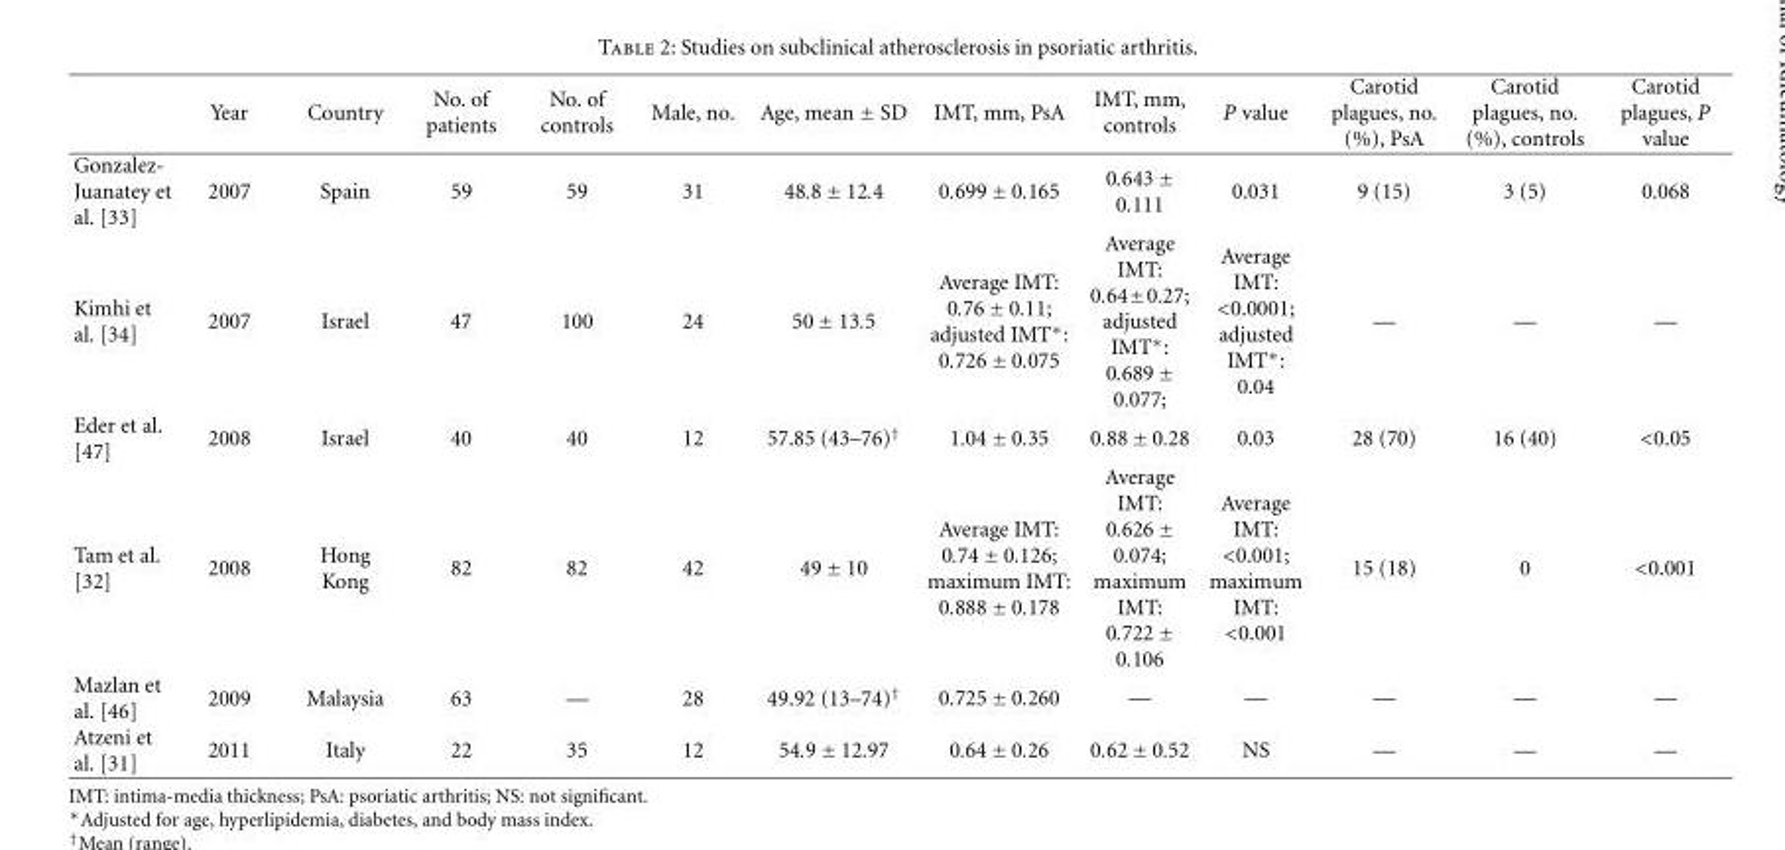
<table><thead><tr><td></td><td>Year</td><td>Country</td><td>No. of patients</td><td>No. of controls</td><td>Male, no.</td><td>Age, mean ± SD</td><td>IMT, mm, PsA</td><td>IMT, mm, controls</td><td>P value</td><td>Carotid plagues, no. (%), PsA</td><td>Carotid plagues, no. (%), controls</td><td>Carotid plagues, P value</td></tr></thead><tbody><tr><td>Gonzalez- Juanatey et al. [33]</td><td>2007</td><td>Spain</td><td>59</td><td>59</td><td>31</td><td>48.8 ± 12.4</td><td>0.699 ± 0.165</td><td>0.643 ± 0.111</td><td>0.031</td><td>9 (15)</td><td>3 (5)</td><td>0.068</td></tr><tr><td>Kimhi et al. [34]</td><td>2007</td><td>Israel</td><td>47</td><td>100</td><td>24</td><td>50 ± 13.5</td><td>Average IMT: 0.76 ± 0.11; adjusted IMT∗: 0.726 ± 0.075</td><td>Average IMT: 0.64±0.27; adjusted IMT∗: 0.689 ± 0.077;</td><td>Average IMT: &lt;0.0001; adjusted IMT∗: 0.04</td><td>—</td><td>—</td><td>—</td></tr><tr><td>Eder et al. [47]</td><td>2008</td><td>Israel</td><td>40</td><td>40</td><td>12</td><td>57.85 (43–76)<sup>†</sup></td><td>1.04 ± 0.35</td><td>0.88 ± 0.28</td><td>0.03</td><td>28 (70)</td><td>16 (40)</td><td>&lt;0.05</td></tr><tr><td>Tam et al. [32]</td><td>2008</td><td>Hong Kong</td><td>82</td><td>82</td><td>42</td><td>49 ± 10</td><td>Average IMT: 0.74 ± 0.126; maximum IMT: 0.888 ± 0.178</td><td>Average IMT: 0.626 ± 0.074; maximum IMT: 0.722 ± 0.106</td><td>Average IMT: &lt;0.001; maximum IMT: &lt;0.001</td><td>15 (18)</td><td>0</td><td>&lt;0.001</td></tr><tr><td>Mazlan et al. [46]</td><td>2009</td><td>Malaysia</td><td>63</td><td>—</td><td>28</td><td>49.92 (13–74)<sup>†</sup></td><td>0.725 ± 0.260</td><td>—</td><td>—</td><td>—</td><td>—</td><td>—</td></tr><tr><td>Atzeni et al. [31]</td><td>2011</td><td>Italy</td><td>22</td><td>35</td><td>12</td><td>54.9 ± 12.97</td><td>0.64 ± 0.26</td><td>0.62 ± 0.52</td><td>NS</td><td>—</td><td>—</td><td>—</td></tr></tbody></table>